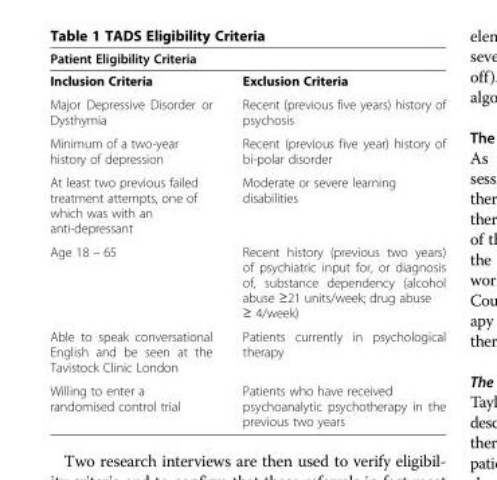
<table><thead><tr><td>Patient Eligibility Criteria</td><td></td></tr></thead><tbody><tr><td>Inclusion Criteria</td><td>Exclusion Criteria</td></tr><tr><td>Major Depressive Disorder or Dysthymia</td><td>Recent (previous five years) history of psychosis</td></tr><tr><td>Minimum of a two-year history of depression</td><td>Recent (previous five year) history of bi-polar disorder</td></tr><tr><td>At least two previous failed treatment attempts, one of which was with an anti-depressant</td><td>Moderate or severe learning disabilities</td></tr><tr><td>Age 18 – 65</td><td>Recent history (previous two years) of psychiatric input for, or diagnosis of, substance dependency (alcohol abuse ≥21 units/week; drug abuse ≥ 4/week)</td></tr><tr><td>Able to speak conversational English and be seen at the Tavistock Clinic London</td><td>Patients currently in psychological therapy</td></tr><tr><td>Willing to enter a randomised control trial</td><td>Patients who have received psychoanalytic psychotherapy in the previous two years</td></tr></tbody></table>